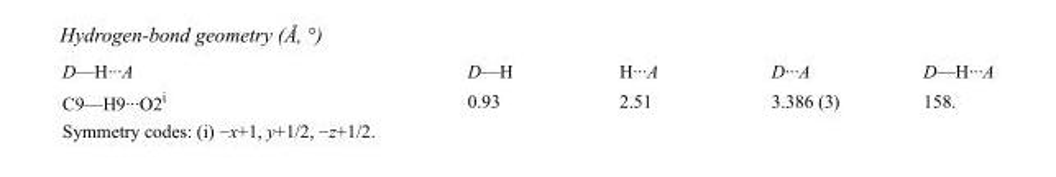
<table><tbody><tr><td>D—H···A</td><td>D—H</td><td>H···A</td><td>D···A</td><td>D—H···A</td></tr><tr><td>C9—H9···O2<sup>i</sup></td><td>0.93</td><td>2.51</td><td>3.386 (3)</td><td>158.</td></tr></tbody></table>